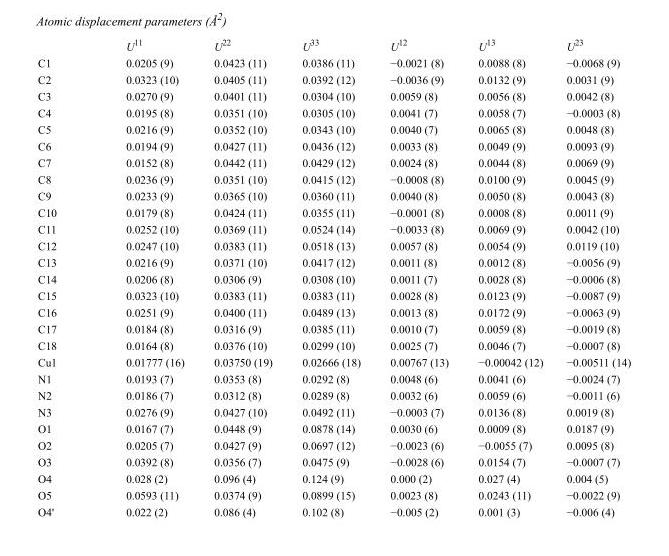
<table><thead><tr><td></td><td>U<sup>11</sup></td><td>U<sup>22</sup></td><td>U<sup>33</sup></td><td>U<sup>12</sup></td><td>U<sup>13</sup></td><td>U<sup>23</sup></td></tr></thead><tbody><tr><td>C1</td><td>0.0205 (9)</td><td>0.0423 (11)</td><td>0.0386 (11)</td><td>−0.0021 (8)</td><td>0.0088 (8)</td><td>−0.0068 (9)</td></tr><tr><td>C2</td><td>0.0323 (10)</td><td>0.0405 (11)</td><td>0.0392 (12)</td><td>−0.0036 (9)</td><td>0.0132 (9)</td><td>0.0031 (9)</td></tr><tr><td>C3</td><td>0.0270 (9)</td><td>0.0401 (11)</td><td>0.0304 (10)</td><td>0.0059 (8)</td><td>0.0056 (8)</td><td>0.0042 (8)</td></tr><tr><td>C4</td><td>0.0195 (8)</td><td>0.0351 (10)</td><td>0.0305 (10)</td><td>0.0041 (7)</td><td>0.0058 (7)</td><td>−0.0003 (8)</td></tr><tr><td>C5</td><td>0.0216 (9)</td><td>0.0352 (10)</td><td>0.0343 (10)</td><td>0.0040 (7)</td><td>0.0065 (8)</td><td>0.0048 (8)</td></tr><tr><td>C6</td><td>0.0194 (9)</td><td>0.0427 (11)</td><td>0.0436 (12)</td><td>0.0033 (8)</td><td>0.0049 (9)</td><td>0.0093 (9)</td></tr><tr><td>C7</td><td>0.0152 (8)</td><td>0.0442 (11)</td><td>0.0429 (12)</td><td>0.0024 (8)</td><td>0.0044 (8)</td><td>0.0069 (9)</td></tr><tr><td>C8</td><td>0.0236 (9)</td><td>0.0351 (10)</td><td>0.0415 (12)</td><td>−0.0008 (8)</td><td>0.0100 (9)</td><td>0.0045 (9)</td></tr><tr><td>C9</td><td>0.0233 (9)</td><td>0.0365 (10)</td><td>0.0360 (11)</td><td>0.0040 (8)</td><td>0.0050 (8)</td><td>0.0043 (8)</td></tr><tr><td>C10</td><td>0.0179 (8)</td><td>0.0424 (11)</td><td>0.0355 (11)</td><td>−0.0001 (8)</td><td>0.0008 (8)</td><td>0.0011 (9)</td></tr><tr><td>C11</td><td>0.0252 (10)</td><td>0.0369 (11)</td><td>0.0524 (14)</td><td>−0.0033 (8)</td><td>0.0069 (9)</td><td>0.0042 (10)</td></tr><tr><td>C12</td><td>0.0247 (10)</td><td>0.0383 (11)</td><td>0.0518 (13)</td><td>0.0057 (8)</td><td>0.0054 (9)</td><td>0.0119 (10)</td></tr><tr><td>C13</td><td>0.0216 (9)</td><td>0.0371 (10)</td><td>0.0417 (12)</td><td>0.0011 (8)</td><td>0.0012 (8)</td><td>−0.0056 (9)</td></tr><tr><td>C14</td><td>0.0206 (8)</td><td>0.0306 (9)</td><td>0.0308 (10)</td><td>0.0011 (7)</td><td>0.0028 (8)</td><td>−0.0006 (8)</td></tr><tr><td>C15</td><td>0.0323 (10)</td><td>0.0383 (11)</td><td>0.0383 (11)</td><td>0.0028 (8)</td><td>0.0123 (9)</td><td>−0.0087 (9)</td></tr><tr><td>C16</td><td>0.0251 (9)</td><td>0.0400 (11)</td><td>0.0489 (13)</td><td>0.0013 (8)</td><td>0.0172 (9)</td><td>−0.0063 (9)</td></tr><tr><td>C17</td><td>0.0184 (8)</td><td>0.0316 (9)</td><td>0.0385 (11)</td><td>0.0010 (7)</td><td>0.0059 (8)</td><td>−0.0019 (8)</td></tr><tr><td>C18</td><td>0.0164 (8)</td><td>0.0376 (10)</td><td>0.0299 (10)</td><td>0.0025 (7)</td><td>0.0046 (7)</td><td>−0.0007 (8)</td></tr><tr><td>Cu1</td><td>0.01777 (16)</td><td>0.03750 (19)</td><td>0.02666 (18)</td><td>0.00767 (13)</td><td>−0.00042 (12)</td><td>−0.00511 (14)</td></tr><tr><td>N1</td><td>0.0193 (7)</td><td>0.0353 (8)</td><td>0.0292 (8)</td><td>0.0048 (6)</td><td>0.0041 (6)</td><td>−0.0024 (7)</td></tr><tr><td>N2</td><td>0.0186 (7)</td><td>0.0312 (8)</td><td>0.0289 (8)</td><td>0.0032 (6)</td><td>0.0059 (6)</td><td>−0.0011 (6)</td></tr><tr><td>N3</td><td>0.0276 (9)</td><td>0.0427 (10)</td><td>0.0492 (11)</td><td>−0.0003 (7)</td><td>0.0136 (8)</td><td>0.0019 (8)</td></tr><tr><td>O1</td><td>0.0167 (7)</td><td>0.0448 (9)</td><td>0.0878 (14)</td><td>0.0030 (6)</td><td>0.0009 (8)</td><td>0.0187 (9)</td></tr><tr><td>O2</td><td>0.0205 (7)</td><td>0.0427 (9)</td><td>0.0697 (12)</td><td>−0.0023 (6)</td><td>−0.0055 (7)</td><td>0.0095 (8)</td></tr><tr><td>O3</td><td>0.0392 (8)</td><td>0.0356 (7)</td><td>0.0475 (9)</td><td>−0.0028 (6)</td><td>0.0154 (7)</td><td>−0.0007 (7)</td></tr><tr><td>O4</td><td>0.028 (2)</td><td>0.096 (4)</td><td>0.124 (9)</td><td>0.000 (2)</td><td>0.027 (4)</td><td>0.004 (5)</td></tr><tr><td>O5</td><td>0.0593 (11)</td><td>0.0374 (9)</td><td>0.0899 (15)</td><td>0.0023 (8)</td><td>0.0243 (11)</td><td>−0.0022 (9)</td></tr><tr><td>O4&#x27;</td><td>0.022 (2)</td><td>0.086 (4)</td><td>0.102 (8)</td><td>−0.005 (2)</td><td>0.001 (3)</td><td>−0.006 (4)</td></tr></tbody></table>